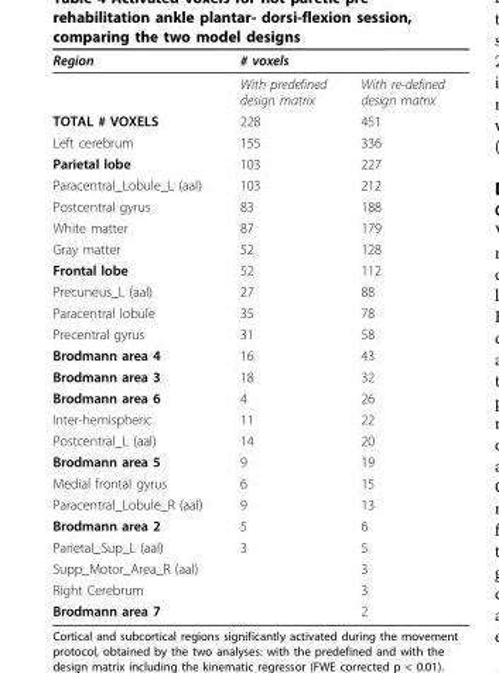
<table><thead><tr><td rowspan="2">Region</td><td colspan="2"># voxels</td></tr><tr><td>With predefined design matrix</td><td>With re-defined design matrix</td></tr></thead><tbody><tr><td>TOTAL # VOXELS</td><td>228</td><td>451</td></tr><tr><td>Left cerebrum</td><td>155</td><td>336</td></tr><tr><td>Parietal lobe</td><td>103</td><td>227</td></tr><tr><td>Paracentral_Lobule_L (aal)</td><td>103</td><td>212</td></tr><tr><td>Postcentral gyrus</td><td>83</td><td>188</td></tr><tr><td>White matter</td><td>87</td><td>179</td></tr><tr><td>Gray matter</td><td>52</td><td>128</td></tr><tr><td>Frontal lobe</td><td>52</td><td>112</td></tr><tr><td>Precuneus_L (aal)</td><td>27</td><td>88</td></tr><tr><td>Paracentral lobule</td><td>35</td><td>78</td></tr><tr><td>Precentral gyrus</td><td>31</td><td>58</td></tr><tr><td>Brodmann area 4</td><td>16</td><td>43</td></tr><tr><td>Brodmann area 3</td><td>18</td><td>32</td></tr><tr><td>Brodmann area 6</td><td>4</td><td>26</td></tr><tr><td>Inter-hemispheric</td><td>11</td><td>22</td></tr><tr><td>Postcentral_L (aal)</td><td>14</td><td>20</td></tr><tr><td>Brodmann area 5</td><td>9</td><td>19</td></tr><tr><td>Medial frontal gyrus</td><td>6</td><td>15</td></tr><tr><td>Paracentral_Lobule_R (aal)</td><td>9</td><td>13</td></tr><tr><td>Brodmann area 2</td><td>5</td><td>6</td></tr><tr><td>Parietal_Sup_L (aal)</td><td>3</td><td>5</td></tr><tr><td>Supp_Motor_Area_R (aal)</td><td></td><td>3</td></tr><tr><td>Right Cerebrum</td><td></td><td>3</td></tr><tr><td>Brodmann area 7</td><td></td><td>2</td></tr></tbody></table>